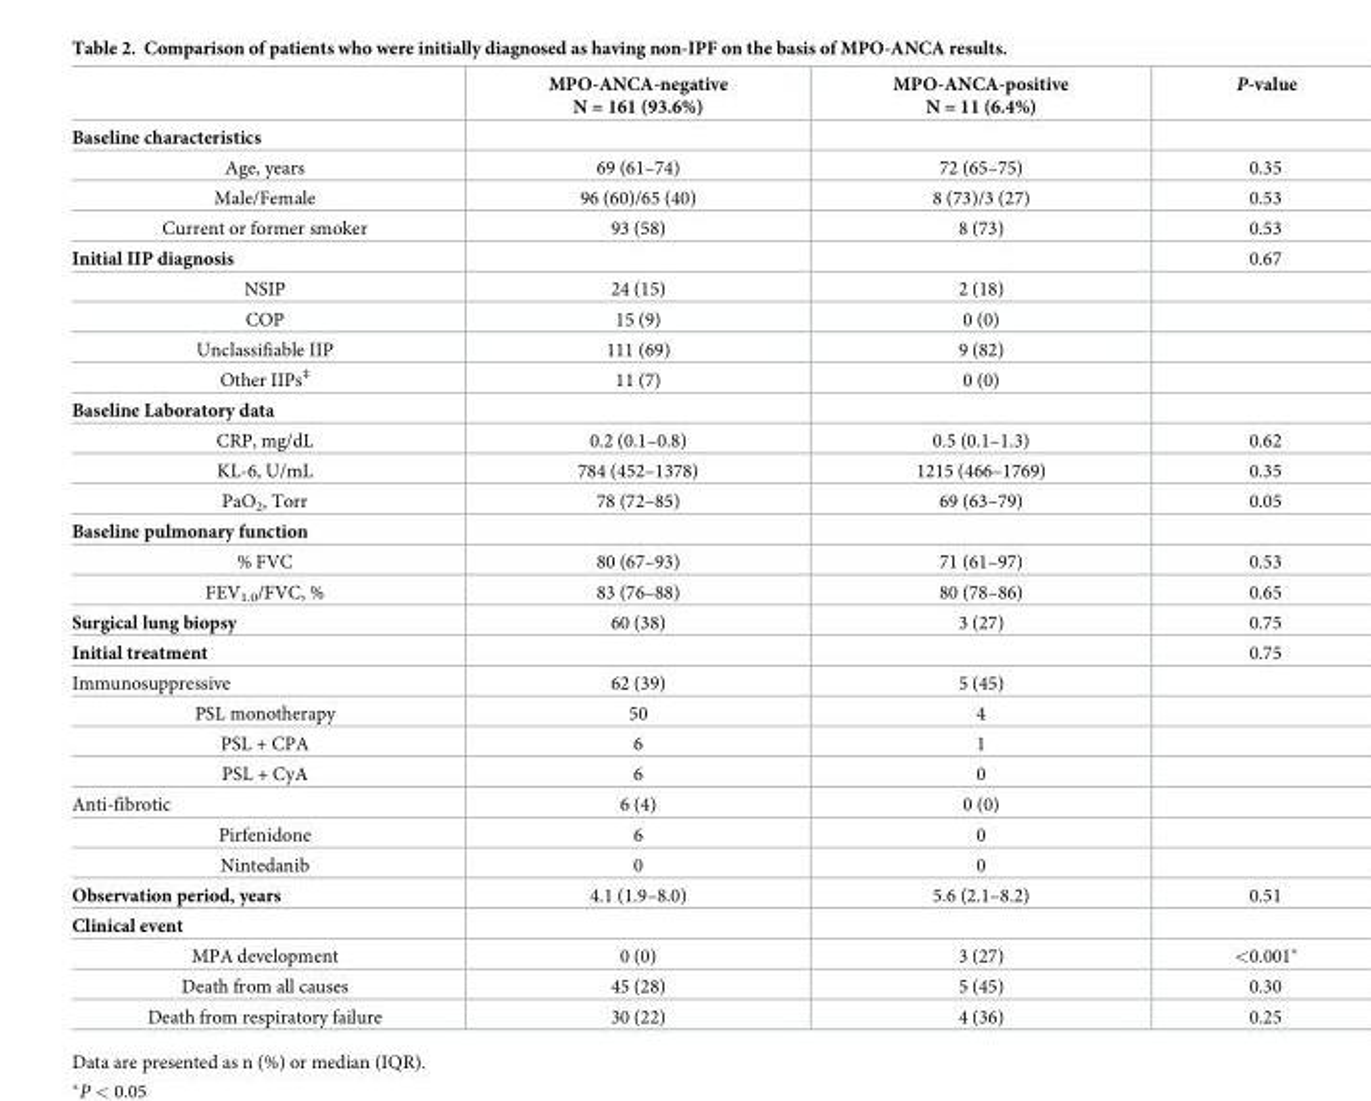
<table><thead><tr><td></td><td>MPO-ANCA-negative N = 161 (93.6%)</td><td>MPO-ANCA-positive N = 11 (6.4%)</td><td>P-value</td></tr></thead><tbody><tr><td colspan="4">Baseline characteristics</td></tr><tr><td>Age, years</td><td>69 (61–74)</td><td>72 (65–75)</td><td>0.35</td></tr><tr><td>Male/Female</td><td>96 (60)/65 (40)</td><td>8 (73)/3 (27)</td><td>0.53</td></tr><tr><td>Current or former smoker</td><td>93 (58)</td><td>8 (73)</td><td>0.53</td></tr><tr><td>Initial IIP diagnosis</td><td></td><td></td><td>0.67</td></tr><tr><td>NSIP</td><td>24 (15)</td><td>2 (18)</td><td></td></tr><tr><td>COP</td><td>15 (9)</td><td>0 (0)</td><td></td></tr><tr><td>Unclassifiable IIP</td><td>111 (69)</td><td>9 (82)</td><td></td></tr><tr><td>Other IIPs<sup>‡</sup></td><td>11 (7)</td><td>0 (0)</td><td></td></tr><tr><td colspan="4">Baseline Laboratory data</td></tr><tr><td>CRP, mg/dL</td><td>0.2 (0.1–0.8)</td><td>0.5 (0.1–1.3)</td><td>0.62</td></tr><tr><td>KL-6, U/mL</td><td>784 (452–1378)</td><td>1215 (466–1769)</td><td>0.35</td></tr><tr><td>PaO<sub>2</sub>, Torr</td><td>78 (72–85)</td><td>69 (63–79)</td><td>0.05</td></tr><tr><td colspan="4">Baseline pulmonary function</td></tr><tr><td>% FVC</td><td>80 (67–93)</td><td>71 (61–97)</td><td>0.53</td></tr><tr><td>FEV<sub>1.0</sub>/FVC, %</td><td>83 (76–88)</td><td>80 (78–86)</td><td>0.65</td></tr><tr><td>Surgical lung biopsy</td><td>60 (38)</td><td>3 (27)</td><td>0.75</td></tr><tr><td>Initial treatment</td><td></td><td></td><td>0.75</td></tr><tr><td>Immunosuppressive</td><td>62 (39)</td><td>5 (45)</td><td></td></tr><tr><td>PSL monotherapy</td><td>50</td><td>4</td><td></td></tr><tr><td>PSL + CPA</td><td>6</td><td>1</td><td></td></tr><tr><td>PSL + CyA</td><td>6</td><td>0</td><td></td></tr><tr><td>Anti-fibrotic</td><td>6 (4)</td><td>0 (0)</td><td></td></tr><tr><td>Pirfenidone</td><td>6</td><td>0</td><td></td></tr><tr><td>Nintedanib</td><td>0</td><td>0</td><td></td></tr><tr><td>Observation period, years</td><td>4.1 (1.9–8.0)</td><td>5.6 (2.1–8.2)</td><td>0.51</td></tr><tr><td colspan="4">Clinical event</td></tr><tr><td>MPA development</td><td>0 (0)</td><td>3 (27)</td><td>&lt;0.001*</td></tr><tr><td>Death from all causes</td><td>45 (28)</td><td>5 (45)</td><td>0.30</td></tr><tr><td>Death from respiratory failure</td><td>30 (22)</td><td>4 (36)</td><td>0.25</td></tr></tbody></table>